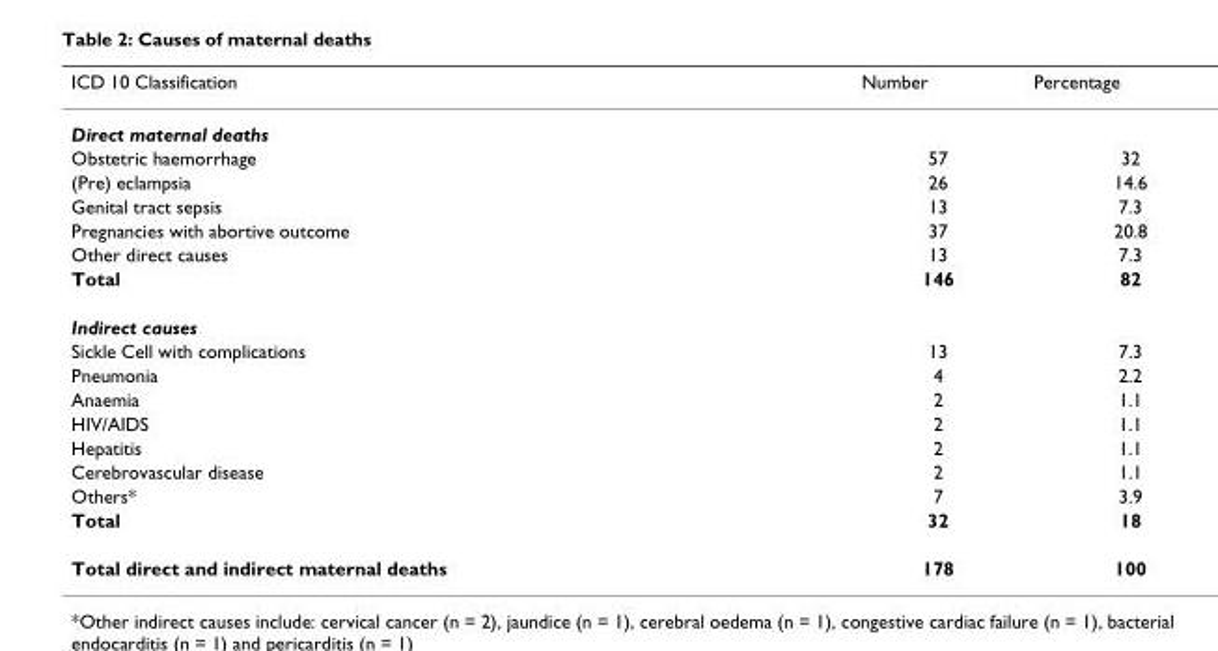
<table><thead><tr><td>ICD 10 Classification</td><td>Number</td><td>Percentage</td></tr></thead><tbody><tr><td colspan="3">Direct maternal deaths</td></tr><tr><td>Obstetric haemorrhage</td><td>57</td><td>32</td></tr><tr><td>(Pre) eclampsia</td><td>26</td><td>14.6</td></tr><tr><td>Genital tract sepsis</td><td>13</td><td>7.3</td></tr><tr><td>Pregnancies with abortive outcome</td><td>37</td><td>20.8</td></tr><tr><td>Other direct causes</td><td>13</td><td>7.3</td></tr><tr><td>Total</td><td>146</td><td>82</td></tr><tr><td colspan="3">Indirect causes</td></tr><tr><td>Sickle Cell with complications</td><td>13</td><td>7.3</td></tr><tr><td>Pneumonia</td><td>4</td><td>2.2</td></tr><tr><td>Anaemia</td><td>2</td><td>1.1</td></tr><tr><td>HIV/AIDS</td><td>2</td><td>1.1</td></tr><tr><td>Hepatitis</td><td>2</td><td>1.1</td></tr><tr><td>Cerebrovascular disease</td><td>2</td><td>1.1</td></tr><tr><td>Others*</td><td>7</td><td>3.9</td></tr><tr><td>Total</td><td>32</td><td>18</td></tr><tr><td>Total direct and indirect maternal deaths</td><td>178</td><td>100</td></tr></tbody></table>